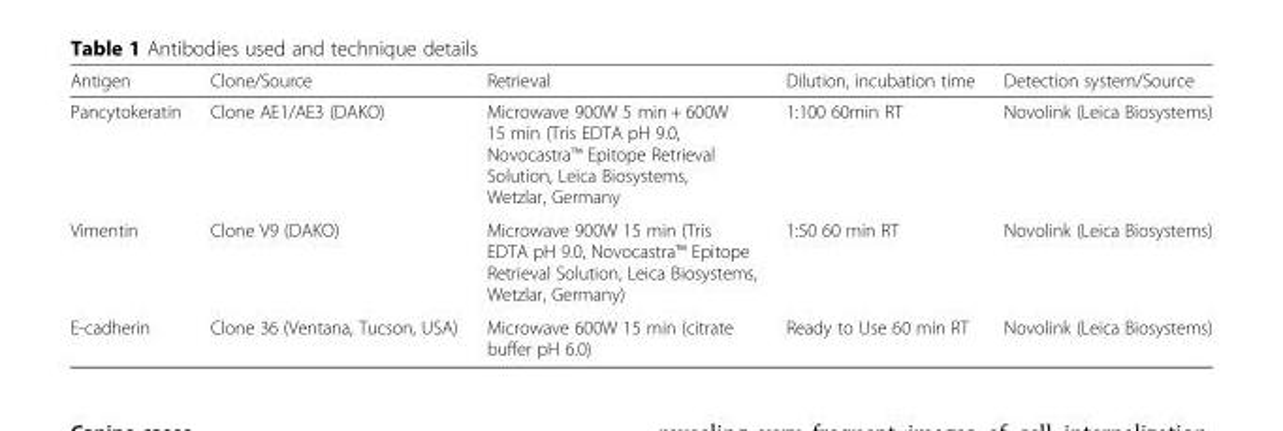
<table><thead><tr><td>Antigen</td><td>Clone/Source</td><td>Retrieval</td><td>Dilution, incubation time</td><td>Detection system/Source</td></tr></thead><tbody><tr><td>Pancytokeratin</td><td>Clone AE1/AE3 (DAKO)</td><td>Microwave 900W 5 min + 600W 15 min (Tris EDTA pH 9.0, Novocastra™ Epitope Retrieval Solution, Leica Biosystems, Wetzlar, Germany</td><td>1:100 60min RT</td><td>Novolink (Leica Biosystems)</td></tr><tr><td>Vimentin</td><td>Clone V9 (DAKO)</td><td>Microwave 900W 15 min (Tris EDTA pH 9.0, Novocastra™ Epitope Retrieval Solution, Leica Biosystems, Wetzlar, Germany)</td><td>1:50 60 min RT</td><td>Novolink (Leica Biosystems)</td></tr><tr><td>E-cadherin</td><td>Clone 36 (Ventana, Tucson, USA)</td><td>Microwave 600W 15 min (citrate buffer pH 6.0)</td><td>Ready to Use 60 min RT</td><td>Novolink (Leica Biosystems)</td></tr></tbody></table>